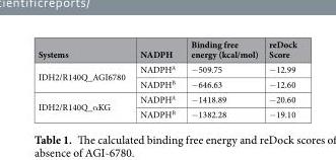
<table><thead><tr><td>Systems</td><td>NADPH</td><td>Binding free energy (kcal/mol)</td><td>reDock Score</td></tr></thead><tbody><tr><td rowspan="2">IDH2/R140Q_AGI6780</td><td>NADPH<sup>A</sup></td><td>−509.75</td><td>−12.99</td></tr><tr><td>NADPH<sup>B</sup></td><td>−646.63</td><td>−12.60</td></tr><tr><td rowspan="2">IDH2/R140Q_αKG</td><td>NADPH<sup>A</sup></td><td>−1418.89</td><td>−20.60</td></tr><tr><td>NADPH<sup>B</sup></td><td>−1382.28</td><td>−19.10</td></tr></tbody></table>